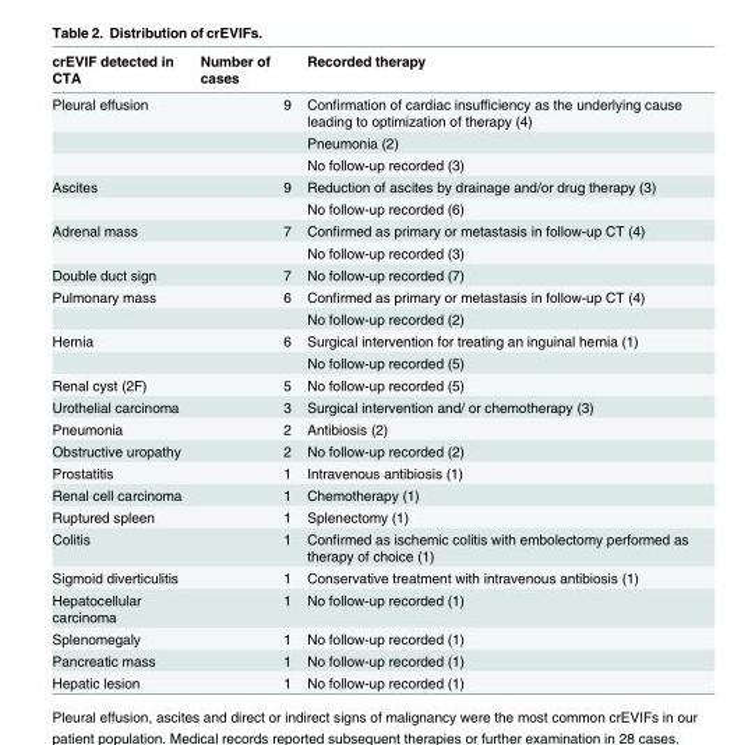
<table><thead><tr><td>crEVIF detected in CTA</td><td>Number of cases</td><td>Recorded therapy</td></tr></thead><tbody><tr><td rowspan="3">Pleural effusion</td><td>9</td><td>Confirmation of cardiac insufficiency as the underlying cause leading to optimization of therapy (4)</td></tr><tr><td></td><td>Pneumonia (2)</td></tr><tr><td></td><td>No follow-up recorded (3)</td></tr><tr><td rowspan="2">Ascites</td><td>9</td><td>Reduction of ascites by drainage and/or drug therapy (3)</td></tr><tr><td></td><td>No follow-up recorded (6)</td></tr><tr><td rowspan="2">Adrenal mass</td><td>7</td><td>Confirmed as primary or metastasis in follow-up CT (4)</td></tr><tr><td></td><td>No follow-up recorded (3)</td></tr><tr><td>Double duct sign</td><td>7</td><td>No follow-up recorded (7)</td></tr><tr><td rowspan="2">Pulmonary mass</td><td>6</td><td>Confirmed as primary or metastasis in follow-up CT (4)</td></tr><tr><td></td><td>No follow-up recorded (2)</td></tr><tr><td rowspan="2">Hernia</td><td>6</td><td>Surgical intervention for treating an inguinal hernia (1)</td></tr><tr><td></td><td>No follow-up recorded (5)</td></tr><tr><td>Renal cyst (2F)</td><td>5</td><td>No follow-up recorded (5)</td></tr><tr><td>Urothelial carcinoma</td><td>3</td><td>Surgical intervention and/ or chemotherapy (3)</td></tr><tr><td>Pneumonia</td><td>2</td><td>Antibiosis (2)</td></tr><tr><td>Obstructive uropathy</td><td>2</td><td>No follow-up recorded (2)</td></tr><tr><td>Prostatitis</td><td>1</td><td>Intravenous antibiosis (1)</td></tr><tr><td>Renal cell carcinoma</td><td>1</td><td>Chemotherapy (1)</td></tr><tr><td>Ruptured spleen</td><td>1</td><td>Splenectomy (1)</td></tr><tr><td>Colitis</td><td>1</td><td>Confirmed as ischemic colitis with embolectomy performed as therapy of choice (1)</td></tr><tr><td>Sigmoid diverticulitis</td><td>1</td><td>Conservative treatment with intravenous antibiosis (1)</td></tr><tr><td>Hepatocellular carcinoma</td><td>1</td><td>No follow-up recorded (1)</td></tr><tr><td>Splenomegaly</td><td>1</td><td>No follow-up recorded (1)</td></tr><tr><td>Pancreatic mass</td><td>1</td><td>No follow-up recorded (1)</td></tr><tr><td>Hepatic lesion</td><td>1</td><td>No follow-up recorded (1)</td></tr></tbody></table>